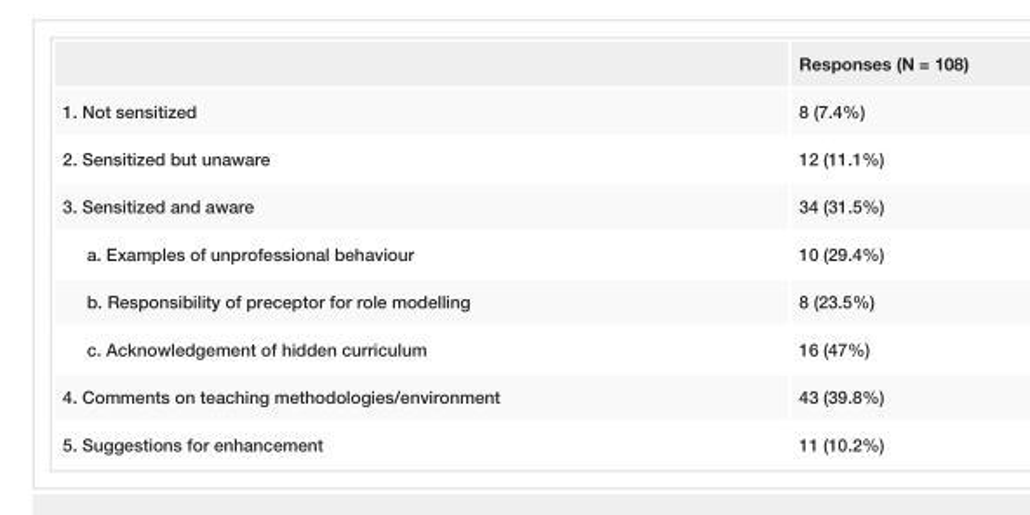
<table><thead><tr><td></td><td>Responses (N = 108)</td></tr></thead><tbody><tr><td>1. Not sensitized</td><td>8 (7.4%)</td></tr><tr><td>2. Sensitized but unaware</td><td>12 (11.1%)</td></tr><tr><td>3. Sensitized and aware</td><td>34 (31.5%)</td></tr><tr><td>a. Examples of unprofessional behaviour</td><td>10 (29.4%)</td></tr><tr><td>b. Responsibility of preceptor for role modelling</td><td>8 (23.5%)</td></tr><tr><td>c. Acknowledgement of hidden curriculum</td><td>16 (47%)</td></tr><tr><td>4. Comments on teaching methodologies/environment</td><td>43 (39.8%)</td></tr><tr><td>5. Suggestions for enhancement</td><td>11 (10.2%)</td></tr></tbody></table>